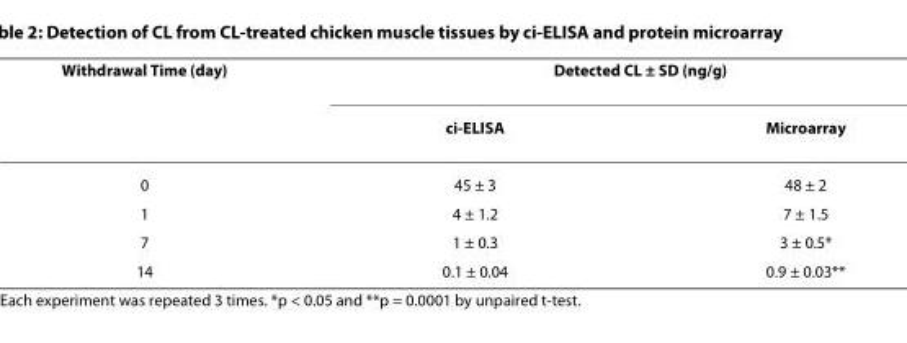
<table><thead><tr><td rowspan="2">Withdrawal Time (day)</td><td colspan="2">Detected CL ± SD (ng/g)</td></tr><tr><td>ci-ELISA</td><td>Microarray</td></tr></thead><tbody><tr><td>0</td><td>45 ± 3</td><td>48 ± 2</td></tr><tr><td>1</td><td>4 ± 1.2</td><td>7 ± 1.5</td></tr><tr><td>7</td><td>1 ± 0.3</td><td>3 ± 0.5*</td></tr><tr><td>14</td><td>0.1 ± 0.04</td><td>0.9 ± 0.03**</td></tr></tbody></table>